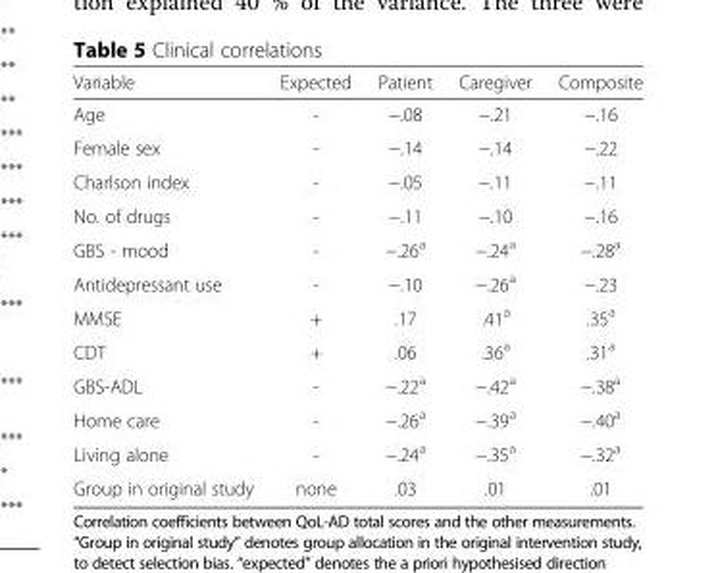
<table><thead><tr><td>Variable</td><td>Expected</td><td>Patient</td><td>Caregiver</td><td>Composite</td></tr></thead><tbody><tr><td>Age</td><td>-</td><td>−.08</td><td>−.21</td><td>−.16</td></tr><tr><td>Female sex</td><td>-</td><td>−.14</td><td>−.14</td><td>−.22</td></tr><tr><td>Charlson index</td><td>-</td><td>−.05</td><td>−.11</td><td>−.11</td></tr><tr><td>No. of drugs</td><td>-</td><td>−.11</td><td>−.10</td><td>−.16</td></tr><tr><td>GBS - mood</td><td>-</td><td>−.26<sup>a</sup></td><td>−.24<sup>a</sup></td><td>−.28<sup>a</sup></td></tr><tr><td>Antidepressant use</td><td>-</td><td>−.10</td><td>−.26<sup>a</sup></td><td>−.23</td></tr><tr><td>MMSE</td><td>+</td><td>.17</td><td>.41<sup>a</sup></td><td>.35<sup>a</sup></td></tr><tr><td>CDT</td><td>+</td><td>.06</td><td>.36<sup>a</sup></td><td>.31<sup>a</sup></td></tr><tr><td>GBS-ADL</td><td>-</td><td>−.22<sup>a</sup></td><td>−.42<sup>a</sup></td><td>−.38<sup>a</sup></td></tr><tr><td>Home care</td><td>-</td><td>−.26<sup>a</sup></td><td>−.39<sup>a</sup></td><td>−.40<sup>a</sup></td></tr><tr><td>Living alone</td><td>-</td><td>−.24<sup>a</sup></td><td>−.35<sup>a</sup></td><td>−.32<sup>a</sup></td></tr><tr><td>Group in original study</td><td>none</td><td>.03</td><td>.01</td><td>.01</td></tr></tbody></table>